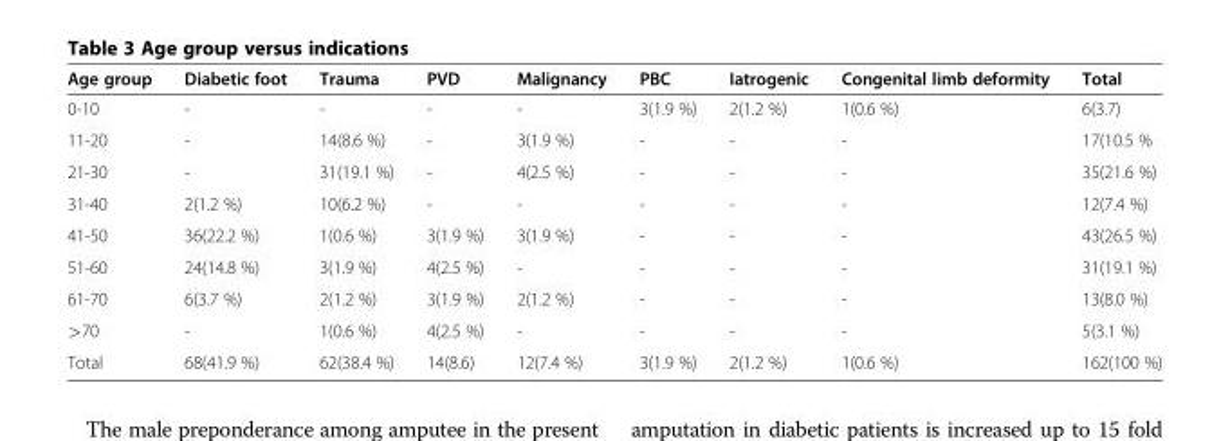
<table><thead><tr><td>Age group</td><td>Diabetic foot</td><td>Trauma</td><td>PVD</td><td>Malignancy</td><td>PBC</td><td>Iatrogenic</td><td>Congenital limb deformity</td><td>Total</td></tr></thead><tbody><tr><td>0-10</td><td>-</td><td>-</td><td>-</td><td>-</td><td>3(1.9 %)</td><td>2(1.2 %)</td><td>1(0.6 %)</td><td>6(3.7)</td></tr><tr><td>11-20</td><td>-</td><td>14(8.6 %)</td><td>-</td><td>3(1.9 %)</td><td>-</td><td>-</td><td>-</td><td>17(10.5 %</td></tr><tr><td>21-30</td><td>-</td><td>31(19.1 %)</td><td>-</td><td>4(2.5 %)</td><td>-</td><td>-</td><td>-</td><td>35(21.6 %)</td></tr><tr><td>31-40</td><td>2(1.2 %)</td><td>10(6.2 %)</td><td>-</td><td>-</td><td>-</td><td>-</td><td>-</td><td>12(7.4 %)</td></tr><tr><td>41-50</td><td>36(22.2 %)</td><td>1(0.6 %)</td><td>3(1.9 %)</td><td>3(1.9 %)</td><td>-</td><td>-</td><td>-</td><td>43(26.5 %)</td></tr><tr><td>51-60</td><td>24(14.8 %)</td><td>3(1.9 %)</td><td>4(2.5 %)</td><td>-</td><td>-</td><td>-</td><td>-</td><td>31(19.1 %)</td></tr><tr><td>61-70</td><td>6(3.7 %)</td><td>2(1.2 %)</td><td>3(1.9 %)</td><td>2(1.2 %)</td><td>-</td><td>-</td><td>-</td><td>13(8.0 %)</td></tr><tr><td>&gt;70</td><td>-</td><td>1(0.6 %)</td><td>4(2.5 %)</td><td>-</td><td>-</td><td>-</td><td>-</td><td>5(3.1 %)</td></tr><tr><td>Total</td><td>68(41.9 %)</td><td>62(38.4 %)</td><td>14(8.6)</td><td>12(7.4 %)</td><td>3(1.9 %)</td><td>2(1.2 %)</td><td>1(0.6 %)</td><td>162(100 %)</td></tr></tbody></table>